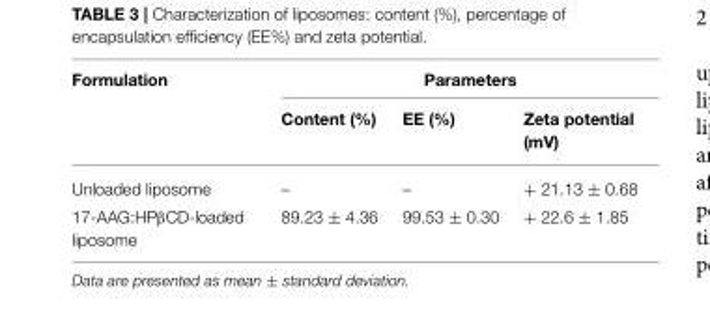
<table><thead><tr><td rowspan="2">Formulation</td><td colspan="3">Parameters</td></tr><tr><td>Content (%)</td><td>EE (%)</td><td>Zeta potential (mV)</td></tr></thead><tbody><tr><td>Unloaded liposome</td><td>–</td><td>–</td><td>+ 21.13 ± 0.68</td></tr><tr><td>17-AAG:HPβCD-loaded liposome</td><td>89.23 ± 4.36</td><td>99.53 ± 0.30</td><td>+ 22.6 ± 1.85</td></tr></tbody></table>